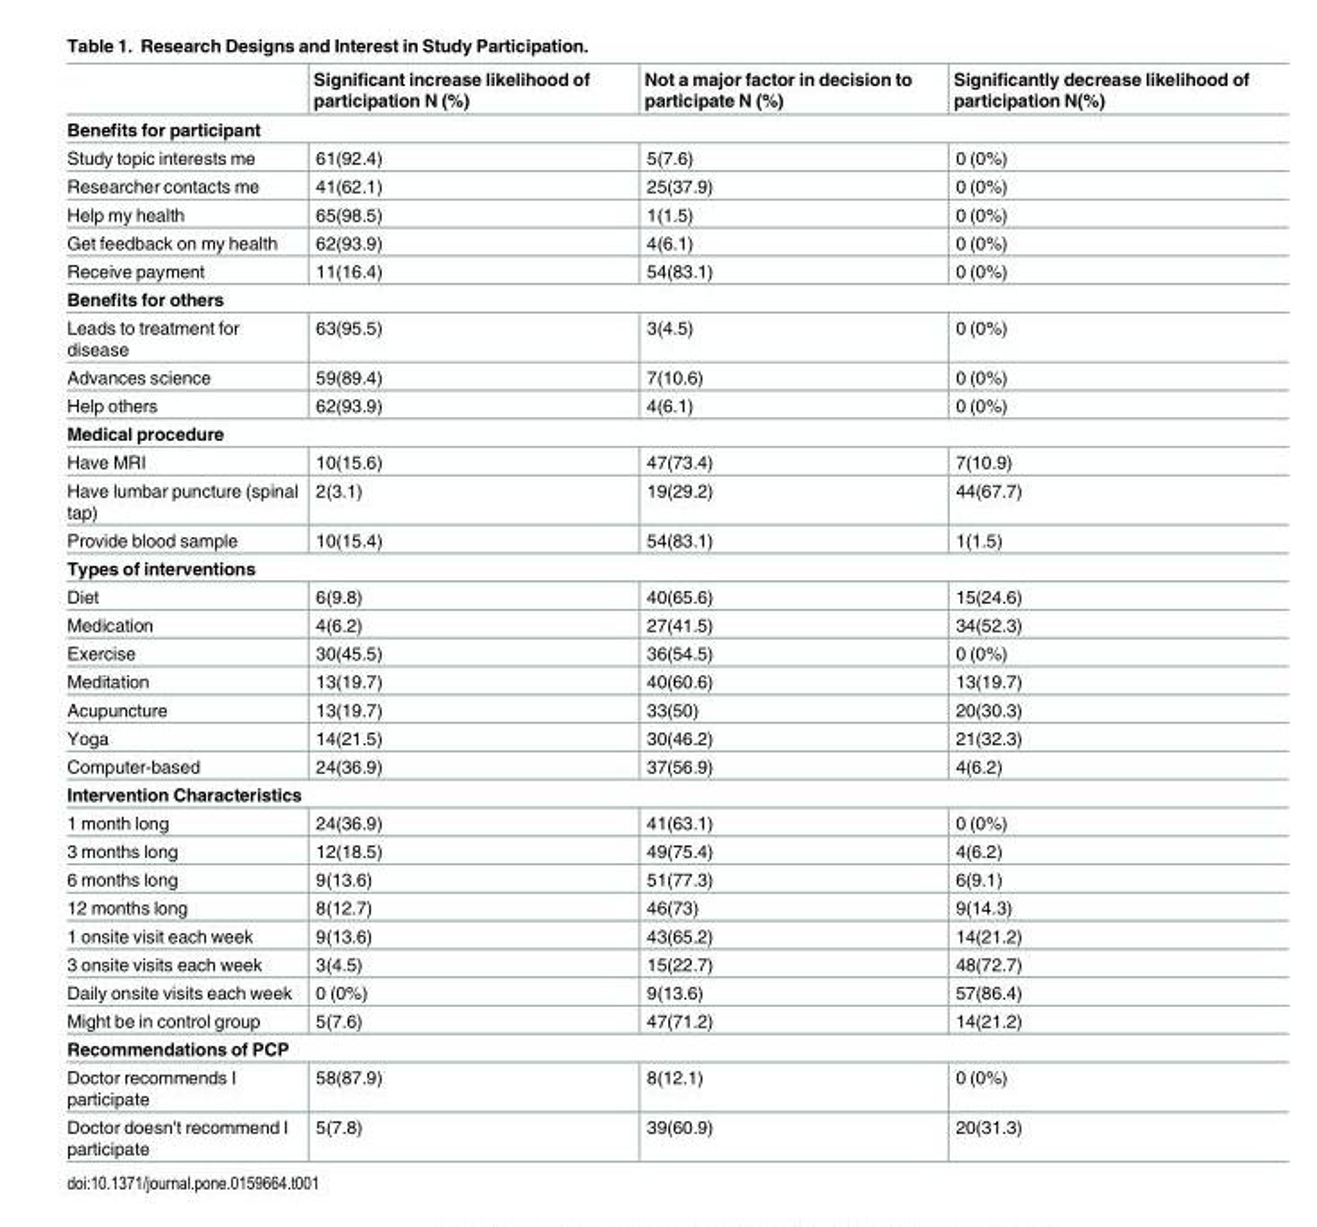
<table><thead><tr><td></td><td>Significant increase likelihood of participation N (%)</td><td>Not a major factor in decision to participate N (%)</td><td>Significantly decrease likelihood of participation N(%)</td></tr></thead><tbody><tr><td colspan="4">Benefits for participant</td></tr><tr><td>Study topic interests me</td><td>61(92.4)</td><td>5(7.6)</td><td>0 (0%)</td></tr><tr><td>Researcher contacts me</td><td>41(62.1)</td><td>25(37.9)</td><td>0 (0%)</td></tr><tr><td>Help my health</td><td>65(98.5)</td><td>1(1.5)</td><td>0 (0%)</td></tr><tr><td>Get feedback on my health</td><td>62(93.9)</td><td>4(6.1)</td><td>0 (0%)</td></tr><tr><td>Receive payment</td><td>11(16.4)</td><td>54(83.1)</td><td>0 (0%)</td></tr><tr><td colspan="4">Benefits for others</td></tr><tr><td>Leads to treatment for disease</td><td>63(95.5)</td><td>3(4.5)</td><td>0 (0%)</td></tr><tr><td>Advances science</td><td>59(89.4)</td><td>7(10.6)</td><td>0 (0%)</td></tr><tr><td>Help others</td><td>62(93.9)</td><td>4(6.1)</td><td>0 (0%)</td></tr><tr><td colspan="4">Medical procedure</td></tr><tr><td>Have MRI</td><td>10(15.6)</td><td>47(73.4)</td><td>7(10.9)</td></tr><tr><td>Have lumbar puncture (spinal tap)</td><td>2(3.1)</td><td>19(29.2)</td><td>44(67.7)</td></tr><tr><td>Provide blood sample</td><td>10(15.4)</td><td>54(83.1)</td><td>1(1.5)</td></tr><tr><td colspan="4">Types of interventions</td></tr><tr><td>Diet</td><td>6(9.8)</td><td>40(65.6)</td><td>15(24.6)</td></tr><tr><td>Medication</td><td>4(6.2)</td><td>27(41.5)</td><td>34(52.3)</td></tr><tr><td>Exercise</td><td>30(45.5)</td><td>36(54.5)</td><td>0 (0%)</td></tr><tr><td>Meditation</td><td>13(19.7)</td><td>40(60.6)</td><td>13(19.7)</td></tr><tr><td>Acupuncture</td><td>13(19.7)</td><td>33(50)</td><td>20(30.3)</td></tr><tr><td>Yoga</td><td>14(21.5)</td><td>30(46.2)</td><td>21(32.3)</td></tr><tr><td>Computer-based</td><td>24(36.9)</td><td>37(56.9)</td><td>4(6.2)</td></tr><tr><td colspan="4">Intervention Characteristics</td></tr><tr><td>1 month long</td><td>24(36.9)</td><td>41(63.1)</td><td>0 (0%)</td></tr><tr><td>3 months long</td><td>12(18.5)</td><td>49(75.4)</td><td>4(6.2)</td></tr><tr><td>6 months long</td><td>9(13.6)</td><td>51(77.3)</td><td>6(9.1)</td></tr><tr><td>12 months long</td><td>8(12.7)</td><td>46(73)</td><td>9(14.3)</td></tr><tr><td>1 onsite visit each week</td><td>9(13.6)</td><td>43(65.2)</td><td>14(21.2)</td></tr><tr><td>3 onsite visits each week</td><td>3(4.5)</td><td>15(22.7)</td><td>48(72.7)</td></tr><tr><td>Daily onsite visits each week</td><td>0 (0%)</td><td>9(13.6)</td><td>57(86.4)</td></tr><tr><td>Might be in control group</td><td>5(7.6)</td><td>47(71.2)</td><td>14(21.2)</td></tr><tr><td colspan="4">Recommendations of PCP</td></tr><tr><td>Doctor recommends I participate</td><td>58(87.9)</td><td>8(12.1)</td><td>0 (0%)</td></tr><tr><td>Doctor doesn&#x27;t recommend I participate</td><td>5(7.8)</td><td>39(60.9)</td><td>20(31.3)</td></tr></tbody></table>